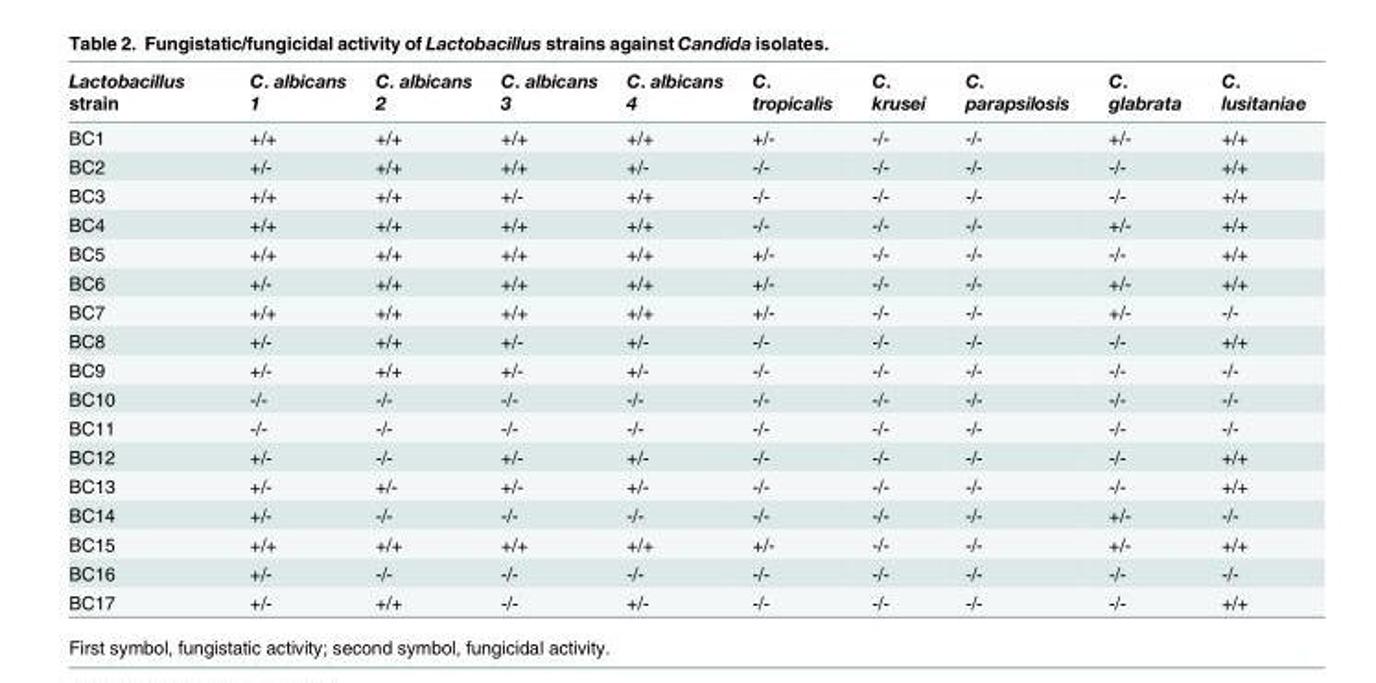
<table><thead><tr><td>Lactobacillus strain</td><td>C. albicans 1</td><td>C. albicans 2</td><td>C. albicans 3</td><td>C. albicans 4</td><td>C. tropicalis</td><td>C. krusei</td><td>C. parapsilosis</td><td>C. glabrata</td><td>C. lusitaniae</td></tr></thead><tbody><tr><td>BC1</td><td>+/+</td><td>+/+</td><td>+/+</td><td>+/+</td><td>+/-</td><td>-/-</td><td>-/-</td><td>+/-</td><td>+/+</td></tr><tr><td>BC2</td><td>+/-</td><td>+/+</td><td>+/+</td><td>+/-</td><td>-/-</td><td>-/-</td><td>-/-</td><td>-/-</td><td>+/+</td></tr><tr><td>BC3</td><td>+/+</td><td>+/+</td><td>+/-</td><td>+/+</td><td>-/-</td><td>-/-</td><td>-/-</td><td>-/-</td><td>+/+</td></tr><tr><td>BC4</td><td>+/+</td><td>+/+</td><td>+/+</td><td>+/+</td><td>-/-</td><td>-/-</td><td>-/-</td><td>+/-</td><td>+/+</td></tr><tr><td>BC5</td><td>+/+</td><td>+/+</td><td>+/+</td><td>+/+</td><td>+/-</td><td>-/-</td><td>-/-</td><td>-/-</td><td>+/+</td></tr><tr><td>BC6</td><td>+/-</td><td>+/+</td><td>+/+</td><td>+/+</td><td>+/-</td><td>-/-</td><td>-/-</td><td>+/-</td><td>+/+</td></tr><tr><td>BC7</td><td>+/+</td><td>+/+</td><td>+/+</td><td>+/+</td><td>+/-</td><td>-/-</td><td>-/-</td><td>+/-</td><td>-/-</td></tr><tr><td>BC8</td><td>+/-</td><td>+/+</td><td>+/-</td><td>+/-</td><td>-/-</td><td>-/-</td><td>-/-</td><td>-/-</td><td>+/+</td></tr><tr><td>BC9</td><td>+/-</td><td>+/+</td><td>+/-</td><td>+/-</td><td>-/-</td><td>-/-</td><td>-/-</td><td>-/-</td><td>-/-</td></tr><tr><td>BC10</td><td>-/-</td><td>-/-</td><td>-/-</td><td>-/-</td><td>-/-</td><td>-/-</td><td>-/-</td><td>-/-</td><td>-/-</td></tr><tr><td>BC11</td><td>-/-</td><td>-/-</td><td>-/-</td><td>-/-</td><td>-/-</td><td>-/-</td><td>-/-</td><td>-/-</td><td>-/-</td></tr><tr><td>BC12</td><td>+/-</td><td>-/-</td><td>+/-</td><td>+/-</td><td>-/-</td><td>-/-</td><td>-/-</td><td>-/-</td><td>+/+</td></tr><tr><td>BC13</td><td>+/-</td><td>+/-</td><td>+/-</td><td>+/-</td><td>-/-</td><td>-/-</td><td>-/-</td><td>-/-</td><td>+/+</td></tr><tr><td>BC14</td><td>+/-</td><td>-/-</td><td>-/-</td><td>-/-</td><td>-/-</td><td>-/-</td><td>-/-</td><td>+/-</td><td>-/-</td></tr><tr><td>BC15</td><td>+/+</td><td>+/+</td><td>+/+</td><td>+/+</td><td>+/-</td><td>-/-</td><td>-/-</td><td>+/-</td><td>+/+</td></tr><tr><td>BC16</td><td>+/-</td><td>-/-</td><td>-/-</td><td>-/-</td><td>-/-</td><td>-/-</td><td>-/-</td><td>-/-</td><td>-/-</td></tr><tr><td>BC17</td><td>+/-</td><td>+/+</td><td>-/-</td><td>+/-</td><td>-/-</td><td>-/-</td><td>-/-</td><td>-/-</td><td>+/+</td></tr></tbody></table>